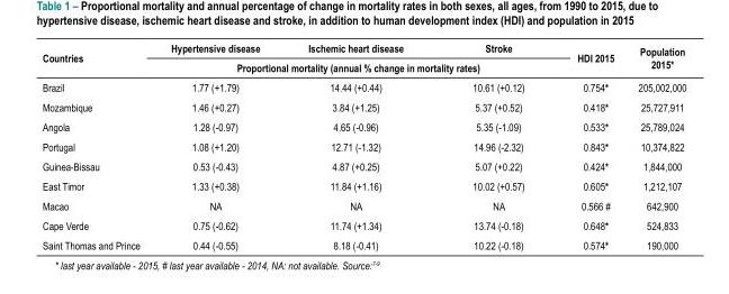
<table><thead><tr><td rowspan="2">Countries</td><td>Hypertensive disease</td><td>Ischemic heart disease</td><td>Stroke</td><td rowspan="2">HDI 2015</td><td rowspan="2">Population 2015*</td></tr><tr><td colspan="3">Proportional mortality (annual % change in mortality rates)</td></tr></thead><tbody><tr><td>Brazil</td><td>1.77 (+1.79)</td><td>14.44 (+0.44)</td><td>10.61 (+0.12)</td><td>0.754*</td><td>205,002,000</td></tr><tr><td>Mozambique</td><td>1.46 (+0.27)</td><td>3.84 (+1.25)</td><td>5.37 (+0.52)</td><td>0.418*</td><td>25,727,911</td></tr><tr><td>Angola</td><td>1.28 (-0.97)</td><td>4.65 (-0.96)</td><td>5.35 (-1.09)</td><td>0.533*</td><td>25,789,024</td></tr><tr><td>Portugal</td><td>1.08 (+1.20)</td><td>12.71 (-1.32)</td><td>14.96 (-2.32)</td><td>0.843*</td><td>10,374,822</td></tr><tr><td>Guinea-Bissau</td><td>0.53 (-0.43)</td><td>4.87 (+0.25)</td><td>5.07 (+0.22)</td><td>0.424*</td><td>1,844,000</td></tr><tr><td>East Timor</td><td>1.33 (+0.38)</td><td>11.84 (+1.16)</td><td>10.02 (+0.57)</td><td>0.605*</td><td>1,212,107</td></tr><tr><td>Macao</td><td>NA</td><td>NA</td><td>NA</td><td>0.566 #</td><td>642,900</td></tr><tr><td>Cape Verde</td><td>0.75 (-0.62)</td><td>11.74 (+1.34)</td><td>13.74 (-0.18)</td><td>0.648*</td><td>524,833</td></tr><tr><td>Saint Thomas and Prince</td><td>0.44 (-0.55)</td><td>8.18 (-0.41)</td><td>10.22 (-0.18)</td><td>0.574*</td><td>190,000</td></tr></tbody></table>